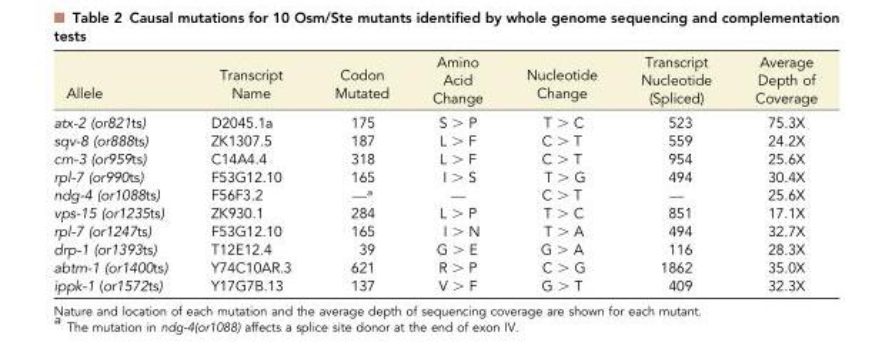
<table><thead><tr><td>Allele</td><td>Transcript Name</td><td>Codon Mutated</td><td>Amino Acid Change</td><td>Nucleotide Change</td><td>Transcript Nucleotide (Spliced)</td><td>Average Depth of Coverage</td></tr></thead><tbody><tr><td>atx-2 (or821ts)</td><td>D2045.1a</td><td>175</td><td>S &gt; P</td><td>T &gt; C</td><td>523</td><td>75.3X</td></tr><tr><td>sqv-8 (or888ts)</td><td>ZK1307.5</td><td>187</td><td>L &gt; F</td><td>C &gt; T</td><td>559</td><td>24.2X</td></tr><tr><td>crn-3 (or959ts)</td><td>C14A4.4</td><td>318</td><td>L &gt; F</td><td>C &gt; T</td><td>954</td><td>25.6X</td></tr><tr><td>rpl-7 (or990ts)</td><td>F53G12.10</td><td>165</td><td>I &gt; S</td><td>T &gt; G</td><td>494</td><td>30.4X</td></tr><tr><td>ndg-4 (or1088ts)</td><td>F56F3.2</td><td>—<sup>a</sup></td><td>—</td><td>C &gt; T</td><td>—</td><td>25.6X</td></tr><tr><td>vps-15 (or1235ts)</td><td>ZK930.1</td><td>284</td><td>L &gt; P</td><td>T &gt; C</td><td>851</td><td>17.1X</td></tr><tr><td>rpl-7 (or1247ts)</td><td>F53G12.10</td><td>165</td><td>I &gt; N</td><td>T &gt; A</td><td>494</td><td>32.7X</td></tr><tr><td>drp-1 (or1393ts)</td><td>T12E12.4</td><td>39</td><td>G &gt; E</td><td>G &gt; A</td><td>116</td><td>28.3X</td></tr><tr><td>abtm-1 (or1400ts)</td><td>Y74C10AR.3</td><td>621</td><td>R &gt; P</td><td>C &gt; G</td><td>1862</td><td>35.0X</td></tr><tr><td>ippk-1 (or1572ts)</td><td>Y17G7B.13</td><td>137</td><td>V &gt; F</td><td>G &gt; T</td><td>409</td><td>32.3X</td></tr></tbody></table>